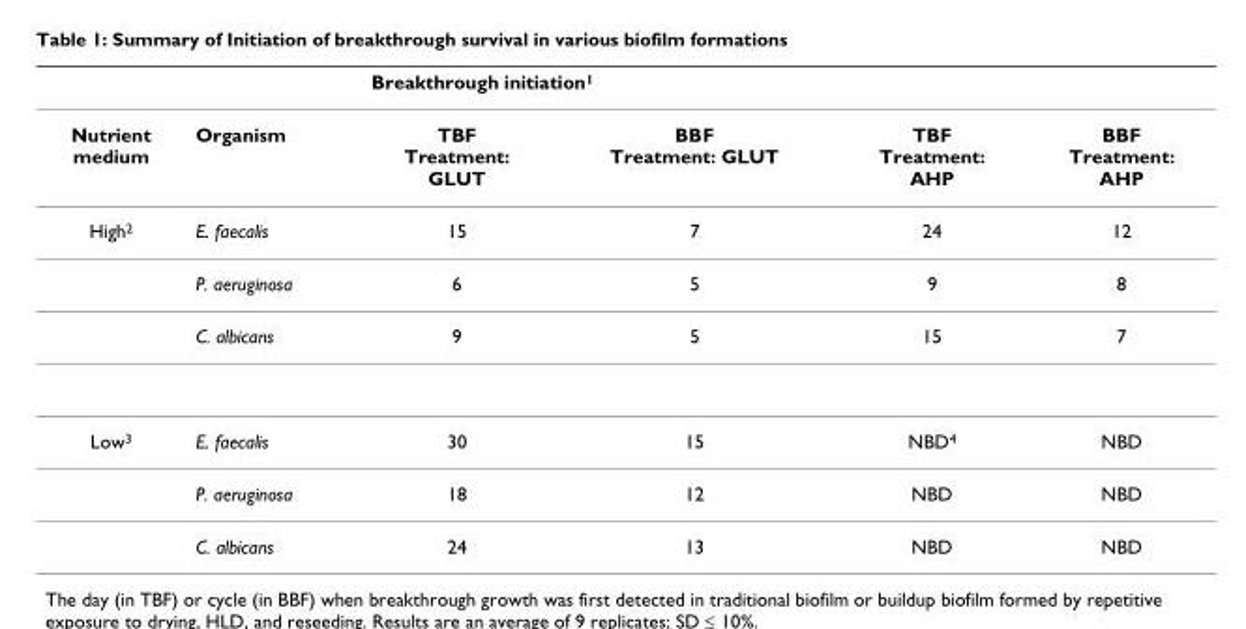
<table><thead><tr><td rowspan="2">Nutrient medium</td><td rowspan="2">Organism</td><td colspan="4">Breakthrough initiation<sup>1</sup></td></tr><tr><td>TBF Treatment: GLUT</td><td>BBF Treatment: GLUT</td><td>TBF Treatment: AHP</td><td>BBF Treatment: AHP</td></tr></thead><tbody><tr><td rowspan="3">High<sup>2</sup></td><td>E. faecalis</td><td>15</td><td>7</td><td>24</td><td>12</td></tr><tr><td>P. aeruginosa</td><td>6</td><td>5</td><td>9</td><td>8</td></tr><tr><td>C. albicans</td><td>9</td><td>5</td><td>15</td><td>7</td></tr><tr><td rowspan="3">Low3</td><td>E. faecalis</td><td>30</td><td>15</td><td>NBD4</td><td>NBD</td></tr><tr><td>P. aeruginosa</td><td>18</td><td>12</td><td>NBD</td><td>NBD</td></tr><tr><td>C. albicans</td><td>24</td><td>13</td><td>NBD</td><td>NBD</td></tr></tbody></table>